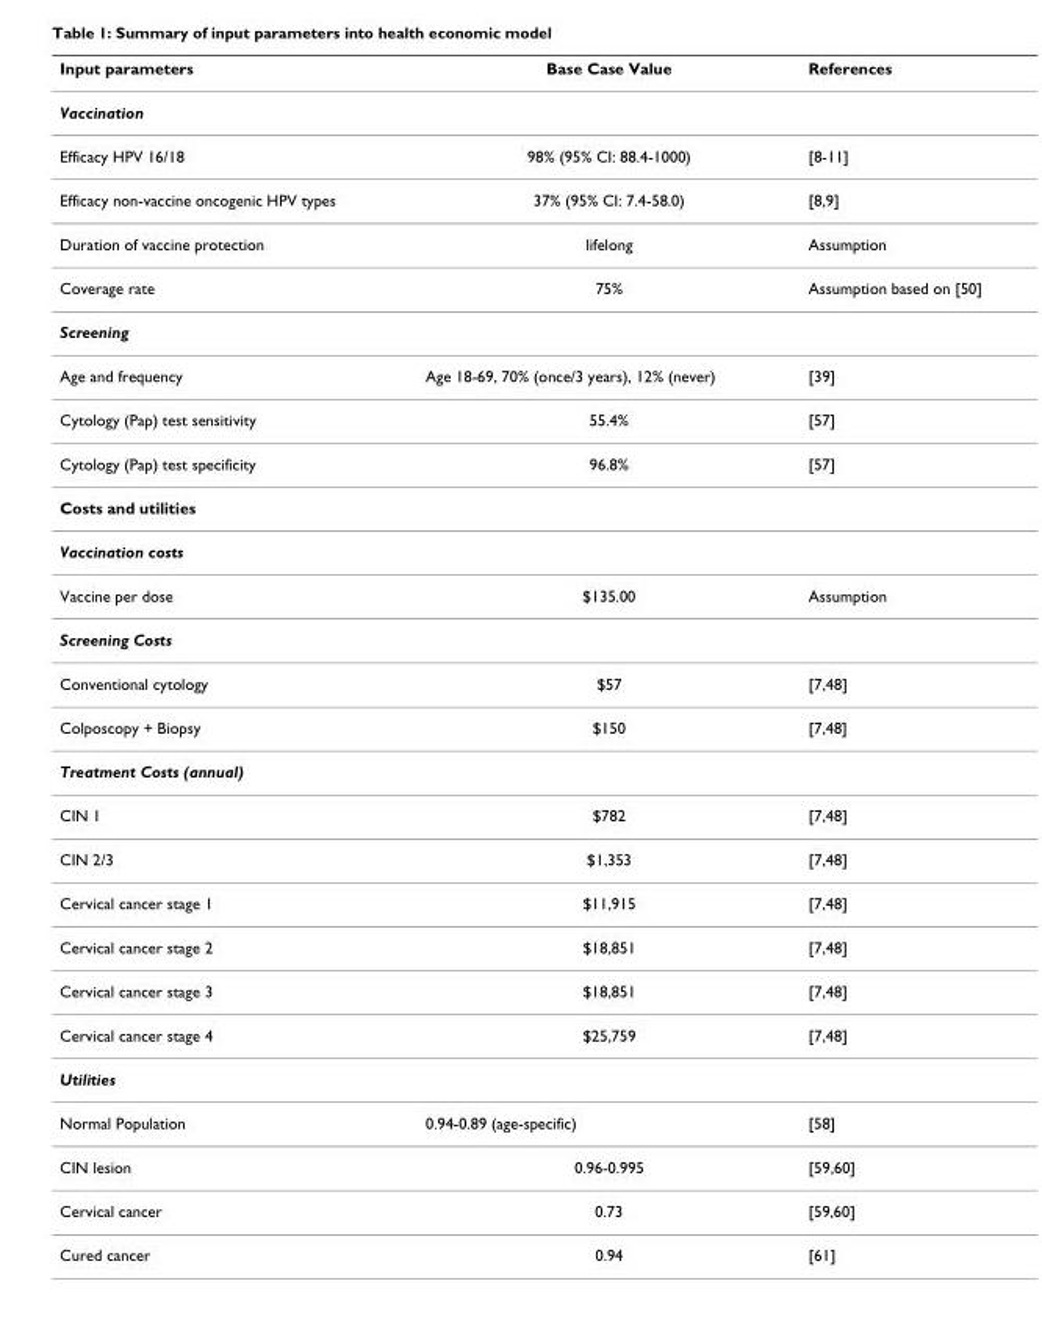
<table><thead><tr><td>Input parameters</td><td>Base Case Value</td><td>References</td></tr></thead><tbody><tr><td colspan="3">Vaccination</td></tr><tr><td>Efficacy HPV 16/18</td><td>98% (95% CI: 88.4-1000)</td><td>[8-11]</td></tr><tr><td>Efficacy non-vaccine oncogenic HPV types</td><td>37% (95% CI: 7.4-58.0)</td><td>[8,9]</td></tr><tr><td>Duration of vaccine protection</td><td>lifelong</td><td>Assumption</td></tr><tr><td>Coverage rate</td><td>75%</td><td>Assumption based on [50]</td></tr><tr><td colspan="3">Screening</td></tr><tr><td>Age and frequency</td><td>Age 18-69, 70% (once/3 years), 12% (never)</td><td>[39]</td></tr><tr><td>Cytology (Pap) test sensitivity</td><td>55.4%</td><td>[57]</td></tr><tr><td>Cytology (Pap) test specificity</td><td>96.8%</td><td>[57]</td></tr><tr><td colspan="3">Costs and utilities</td></tr><tr><td colspan="3">Vaccination costs</td></tr><tr><td>Vaccine per dose</td><td>$135.00</td><td>Assumption</td></tr><tr><td colspan="3">Screening Costs</td></tr><tr><td>Conventional cytology</td><td>$57</td><td>[7,48]</td></tr><tr><td>Colposcopy + Biopsy</td><td>$150</td><td>[7,48]</td></tr><tr><td colspan="3">Treatment Costs (annual)</td></tr><tr><td>CIN 1</td><td>$782</td><td>[7,48]</td></tr><tr><td>CIN 2/3</td><td>$1,353</td><td>[7,48]</td></tr><tr><td>Cervical cancer stage 1</td><td>$11,915</td><td>[7,48]</td></tr><tr><td>Cervical cancer stage 2</td><td>$18,851</td><td>[7,48]</td></tr><tr><td>Cervical cancer stage 3</td><td>$18,851</td><td>[7,48]</td></tr><tr><td>Cervical cancer stage 4</td><td>$25,759</td><td>[7,48]</td></tr><tr><td colspan="3">Utilities</td></tr><tr><td>Normal Population</td><td>0.94-0.89 (age-specific)</td><td>[58]</td></tr><tr><td>CIN lesion</td><td>0.96-0.995</td><td>[59,60]</td></tr><tr><td>Cervical cancer</td><td>0.73</td><td>[59,60]</td></tr><tr><td>Cured cancer</td><td>0.94</td><td>[61]</td></tr></tbody></table>